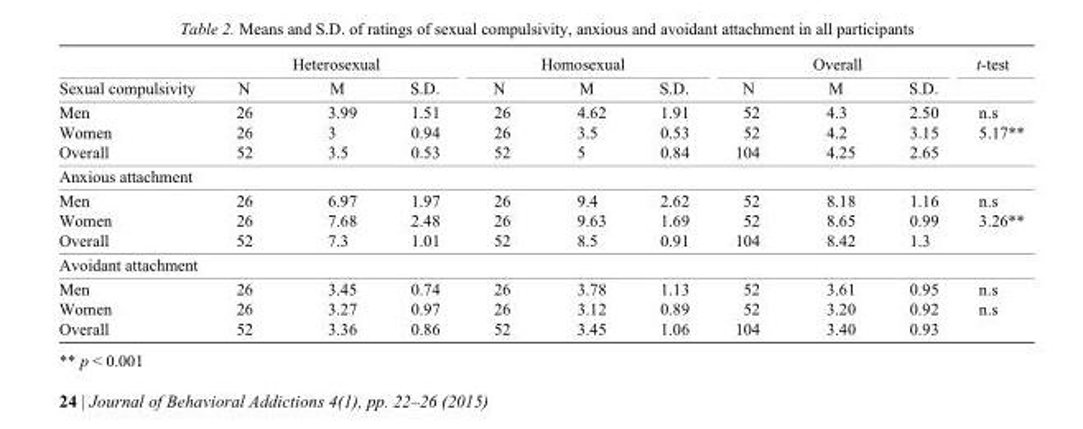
<table><thead><tr><td rowspan="2">Sexual compulsivity</td><td colspan="3">Heterosexual</td><td colspan="3">Homosexual</td><td colspan="3">Overall</td><td rowspan="2">t-test</td></tr><tr><td>N</td><td>M</td><td>S.D.</td><td>N</td><td>M</td><td>S.D.</td><td>N</td><td>M</td><td>S.D.</td></tr></thead><tbody><tr><td>Men</td><td>26</td><td>3.99</td><td>1.51</td><td>26</td><td>4.62</td><td>1.91</td><td>52</td><td>4.3</td><td>2.50</td><td>n.s</td></tr><tr><td>Women</td><td>26</td><td>3</td><td>0.94</td><td>26</td><td>3.5</td><td>0.53</td><td>52</td><td>4.2</td><td>3.15</td><td>5.17**</td></tr><tr><td>Overall</td><td>52</td><td>3.5</td><td>0.53</td><td>52</td><td>5</td><td>0.84</td><td>104</td><td>4.25</td><td>2.65</td><td></td></tr><tr><td colspan="11">Anxious attachment</td></tr><tr><td>Men</td><td>26</td><td>6.97</td><td>1.97</td><td>26</td><td>9.4</td><td>2.62</td><td>52</td><td>8.18</td><td>1.16</td><td>n.s</td></tr><tr><td>Women</td><td>26</td><td>7.68</td><td>2.48</td><td>26</td><td>9.63</td><td>1.69</td><td>52</td><td>8.65</td><td>0.99</td><td>3.26**</td></tr><tr><td>Overall</td><td>52</td><td>7.3</td><td>1.01</td><td>52</td><td>8.5</td><td>0.91</td><td>104</td><td>8.42</td><td>1.3</td><td></td></tr><tr><td colspan="11">Avoidant attachment</td></tr><tr><td>Men</td><td>26</td><td>3.45</td><td>0.74</td><td>26</td><td>3.78</td><td>1.13</td><td>52</td><td>3.61</td><td>0.95</td><td>n.s</td></tr><tr><td>Women</td><td>26</td><td>3.27</td><td>0.97</td><td>26</td><td>3.12</td><td>0.89</td><td>52</td><td>3.20</td><td>0.92</td><td>n.s</td></tr><tr><td>Overall</td><td>52</td><td>3.36</td><td>0.86</td><td>52</td><td>3.45</td><td>1.06</td><td>104</td><td>3.40</td><td>0.93</td><td></td></tr><tr><td colspan="11">** p &lt; 0.001</td></tr></tbody></table>